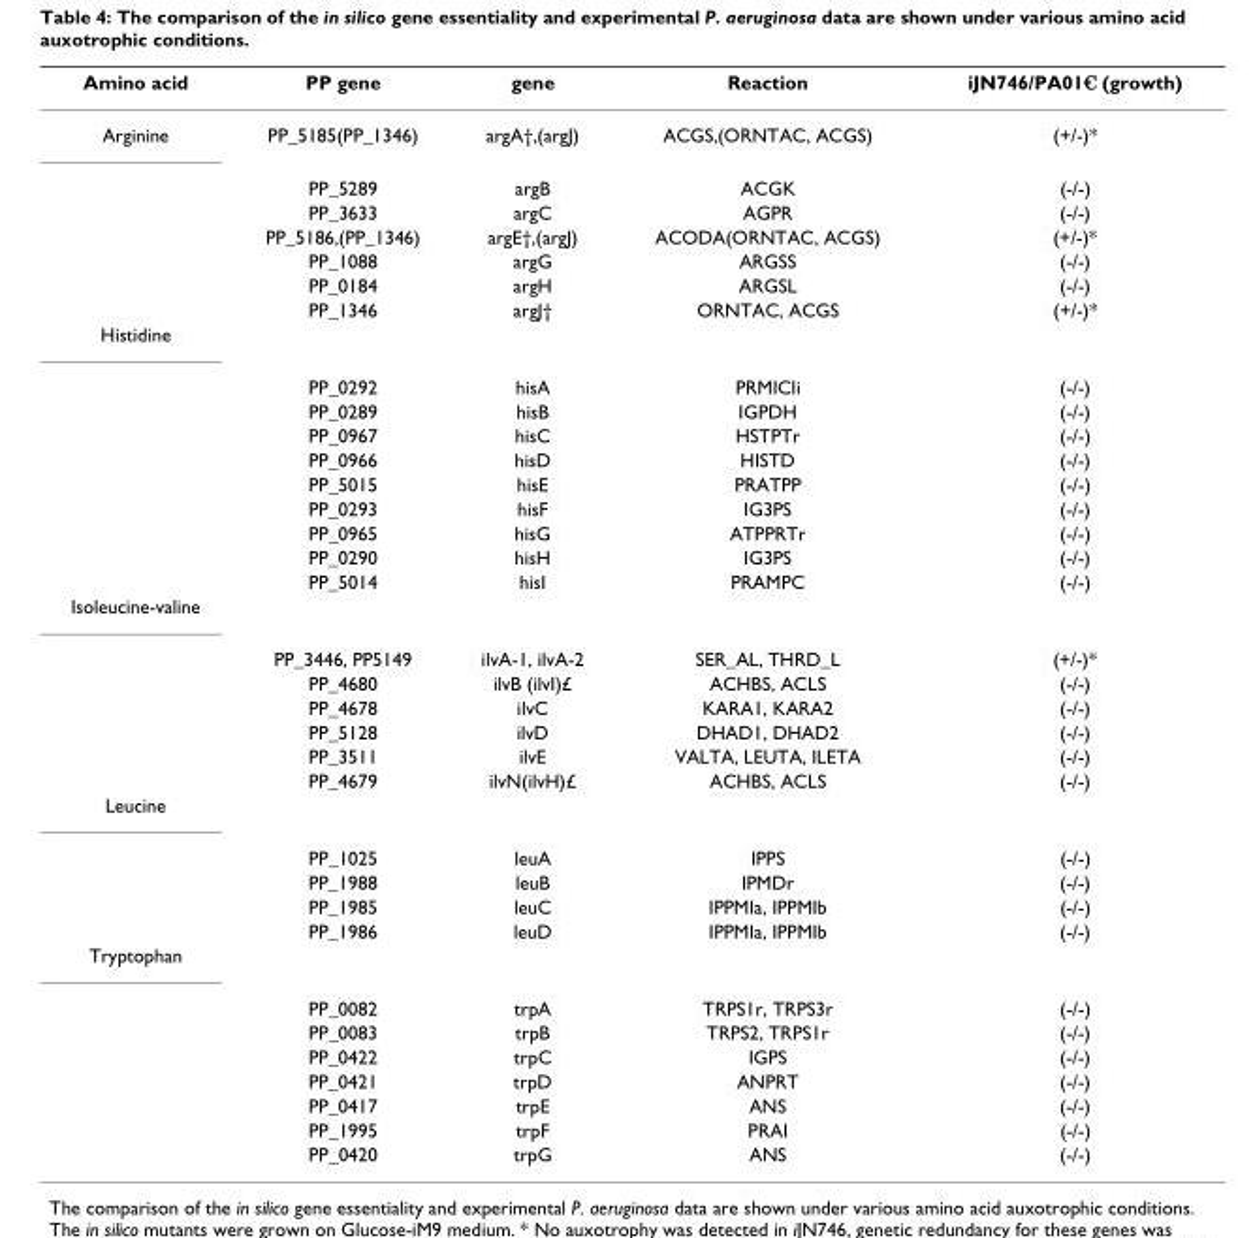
<table><thead><tr><td>Amino acid</td><td>PP gene</td><td>gene</td><td>Reaction</td><td>iJN746/PA01€ (growth)</td></tr></thead><tbody><tr><td rowspan="7">Arginine</td><td>PP_5185(PP_1346)</td><td>argA†,(argJ)</td><td>ACGS,(ORNTAC, ACGS)</td><td>(+/-)*</td></tr><tr><td>PP_5289</td><td>argB</td><td>ACGK</td><td>(-/-)</td></tr><tr><td>PP_3633</td><td>argC</td><td>AGPR</td><td>(-/-)</td></tr><tr><td>PP_5186,(PP_1346)</td><td>argE†,(argJ)</td><td>ACODA(ORNTAC, ACGS)</td><td>(+/-)*</td></tr><tr><td>PP_1088</td><td>argG</td><td>ARGSS</td><td>(-/-)</td></tr><tr><td>PP_0184</td><td>argH</td><td>ARGSL</td><td>(-/-)</td></tr><tr><td>PP_1346</td><td>argJ†</td><td>ORNTAC, ACGS</td><td>(+/-)*</td></tr><tr><td colspan="5">Histidine</td></tr><tr><td></td><td>PP_0292</td><td>hisA</td><td>PRMICIi</td><td>(-/-)</td></tr><tr><td></td><td>PP_0289</td><td>hisB</td><td>IGPDH</td><td>(-/-)</td></tr><tr><td></td><td>PP_0967</td><td>hisC</td><td>HSTPTr</td><td>(-/-)</td></tr><tr><td></td><td>PP_0966</td><td>hisD</td><td>HISTD</td><td>(-/-)</td></tr><tr><td></td><td>PP_5015</td><td>hisE</td><td>PRATPP</td><td>(-/-)</td></tr><tr><td></td><td>PP_0293</td><td>hisF</td><td>IG3PS</td><td>(-/-)</td></tr><tr><td></td><td>PP_0965</td><td>hisG</td><td>ATPPRTr</td><td>(-/-)</td></tr><tr><td></td><td>PP_0290</td><td>hisH</td><td>IG3PS</td><td>(-/-)</td></tr><tr><td></td><td>PP_5014</td><td>hisI</td><td>PRAMPC</td><td>(-/-)</td></tr><tr><td colspan="5">Isoleucine-valine</td></tr><tr><td></td><td>PP_3446, PP5149</td><td>ilvA-1, ilvA-2</td><td>SER_AL, THRD_L</td><td>(+/-)*</td></tr><tr><td></td><td>PP_4680</td><td>ilvB (ilvI)£</td><td>ACHBS, ACLS</td><td>(-/-)</td></tr><tr><td></td><td>PP_4678</td><td>ilvC</td><td>KARA1, KARA2</td><td>(-/-)</td></tr><tr><td></td><td>PP_5128</td><td>ilvD</td><td>DHAD1, DHAD2</td><td>(-/-)</td></tr><tr><td></td><td>PP_3511</td><td>ilvE</td><td>VALTA, LEUTA, ILETA</td><td>(-/-)</td></tr><tr><td></td><td>PP_4679</td><td>ilvN(ilvH)£</td><td>ACHBS, ACLS</td><td>(-/-)</td></tr><tr><td colspan="5">Leucine</td></tr><tr><td></td><td>PP_1025</td><td>leuA</td><td>IPPS</td><td>(-/-)</td></tr><tr><td></td><td>PP_1988</td><td>leuB</td><td>IPMDr</td><td>(-/-)</td></tr><tr><td></td><td>PP_1985</td><td>leuC</td><td>IPPMIa, IPPMIb</td><td>(-/-)</td></tr><tr><td></td><td>PP_1986</td><td>leuD</td><td>IPPMIa, IPPMIb</td><td>(-/-)</td></tr><tr><td colspan="5">Tryptophan</td></tr><tr><td></td><td>PP_0082</td><td>trpA</td><td>TRPS1r, TRPS3r</td><td>(-/-)</td></tr><tr><td></td><td>PP_0083</td><td>trpB</td><td>TRPS2, TRPS1r</td><td>(-/-)</td></tr><tr><td></td><td>PP_0422</td><td>trpC</td><td>IGPS</td><td>(-/-)</td></tr><tr><td></td><td>PP_0421</td><td>trpD</td><td>ANPRT</td><td>(-/-)</td></tr><tr><td></td><td>PP_0417</td><td>trpE</td><td>ANS</td><td>(-/-)</td></tr><tr><td></td><td>PP_1995</td><td>trpF</td><td>PRAI</td><td>(-/-)</td></tr><tr><td></td><td>PP_0420</td><td>trpG</td><td>ANS</td><td>(-/-)</td></tr></tbody></table>